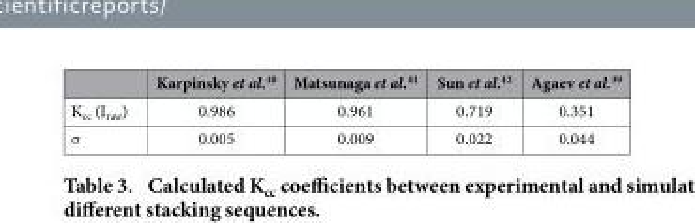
<table><thead><tr><td></td><td>Karpinsky et al.<sup>40</sup></td><td>Matsunaga et al.<sup>41</sup></td><td>Sun et al.<sup>42</sup></td><td>Agaev et al.<sup>39</sup></td></tr></thead><tbody><tr><td>K<sub>cc</sub> (I<sub>raw</sub>)</td><td>0.986</td><td>0.961</td><td>0.719</td><td>0.351</td></tr><tr><td>σ</td><td>0.005</td><td>0.009</td><td>0.022</td><td>0.044</td></tr></tbody></table>